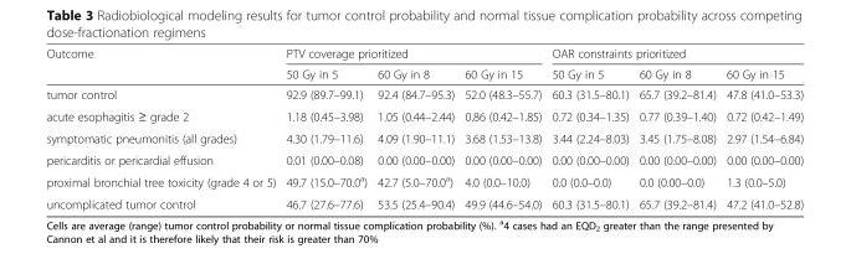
<table><thead><tr><td rowspan="2">Outcome</td><td colspan="3">PTV coverage prioritized</td><td colspan="3">OAR constraints prioritized</td></tr><tr><td>50 Gy in 5</td><td>60 Gy in 8</td><td>60 Gy in 15</td><td>50 Gy in 5</td><td>60 Gy in 8</td><td>60 Gy in 15</td></tr></thead><tbody><tr><td>tumor control</td><td>92.9 (89.7–99.1)</td><td>92.4 (84.7–95.3)</td><td>52.0 (48.3–55.7)</td><td>60.3 (31.5–80.1)</td><td>65.7 (39.2–81.4)</td><td>47.8 (41.0–53.3)</td></tr><tr><td>acute esophagitis ≥ grade 2</td><td>1.18 (0.45–3.98)</td><td>1.05 (0.44–2.44)</td><td>0.86 (0.42–1.85)</td><td>0.72 (0.34–1.35)</td><td>0.77 (0.39–1.40)</td><td>0.72 (0.42–1.49)</td></tr><tr><td>symptomatic pneumonitis (all grades)</td><td>4.30 (1.79–11.6)</td><td>4.09 (1.90–11.1)</td><td>3.68 (1.53–13.8)</td><td>3.44 (2.24–8.03)</td><td>3.45 (1.75–8.08)</td><td>2.97 (1.54–6.84)</td></tr><tr><td>pericarditis or pericardial effusion</td><td>0.01 (0.00–0.08)</td><td>0.00 (0.00–0.00)</td><td>0.00 (0.00–0.00)</td><td>0.00 (0.00–0.00)</td><td>0.00 (0.00–0.00)</td><td>0.00 (0.00–0.00)</td></tr><tr><td>proximal bronchial tree toxicity (grade 4 or 5)</td><td>49.7 (15.0–70.0<sup>a</sup>)</td><td>42.7 (5.0–70.0<sup>a</sup>)</td><td>4.0 (0.0–10.0)</td><td>0.0 (0.0–0.0)</td><td>0.0 (0.00–0.0)</td><td>1.3 (0.0–5.0)</td></tr><tr><td>uncomplicated tumor control</td><td>46.7 (27.6–77.6)</td><td>53.5 (25.4–90.4)</td><td>49.9 (44.6–54.0)</td><td>60.3 (31.5–80.1)</td><td>65.7 (39.2–81.4)</td><td>47.2 (41.0–52.8)</td></tr></tbody></table>